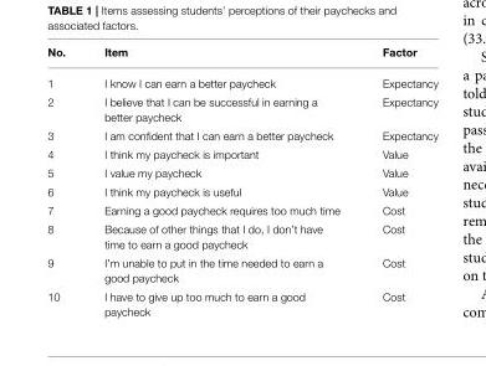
<table><thead><tr><td>No.</td><td>Item</td><td>Factor</td></tr></thead><tbody><tr><td>1</td><td>I know I can earn a better paycheck</td><td>Expectancy</td></tr><tr><td>2</td><td>I believe that I can be successful in earning a better paycheck</td><td>Expectancy</td></tr><tr><td>3</td><td>I am confident that I can earn a better paycheck</td><td>Expectancy</td></tr><tr><td>4</td><td>I think my paycheck is important</td><td>Value</td></tr><tr><td>5</td><td>I value my paycheck</td><td>Value</td></tr><tr><td>6</td><td>I think my paycheck is useful</td><td>Value</td></tr><tr><td>7</td><td>Earning a good paycheck requires too much time</td><td>Cost</td></tr><tr><td>8</td><td>Because of other things that I do, I don’t have time to earn a good paycheck</td><td>Cost</td></tr><tr><td>9</td><td>I’m unable to put in the time needed to earn a good paycheck</td><td>Cost</td></tr><tr><td>10</td><td>I have to give up too much to earn a good paycheck</td><td>Cost</td></tr></tbody></table>